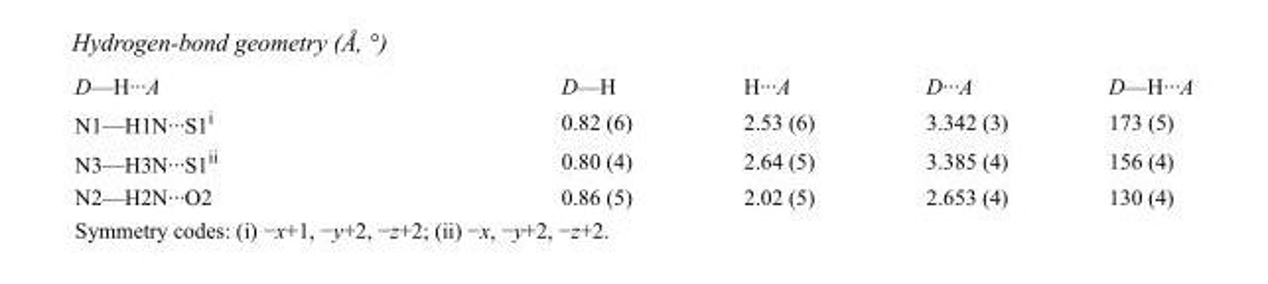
<table><tbody><tr><td>D—H···A</td><td>D—H</td><td>H···A</td><td>D···A</td><td>D—H···A</td></tr><tr><td>N1—H1N···S1<sup>i</sup></td><td>0.82 (6)</td><td>2.53 (6)</td><td>3.342 (3)</td><td>173 (5)</td></tr><tr><td>N3—H3N···S1<sup>ii</sup></td><td>0.80 (4)</td><td>2.64 (5)</td><td>3.385 (4)</td><td>156 (4)</td></tr><tr><td>N2—H2N···O2</td><td>0.86 (5)</td><td>2.02 (5)</td><td>2.653 (4)</td><td>130 (4)</td></tr></tbody></table>